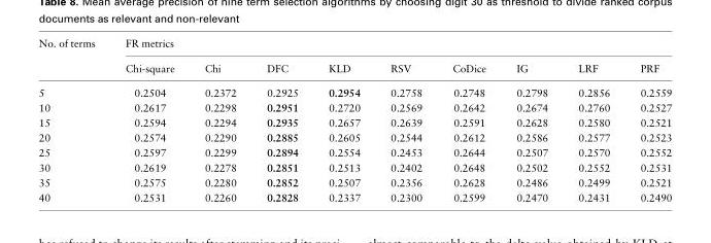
<table><thead><tr><td rowspan="2">No. of terms</td><td colspan="9">FR metrics</td></tr><tr><td>Chi-square</td><td>Chi</td><td>DFC</td><td>KLD</td><td>RSV</td><td>CoDice</td><td>IG</td><td>LRF</td><td>PRF</td></tr></thead><tbody><tr><td>5</td><td>0.2504</td><td>0.2372</td><td>0.2925</td><td>0.2954</td><td>0.2758</td><td>0.2748</td><td>0.2798</td><td>0.2856</td><td>0.2559</td></tr><tr><td>10</td><td>0.2617</td><td>0.2298</td><td>0.2951</td><td>0.2720</td><td>0.2569</td><td>0.2642</td><td>0.2674</td><td>0.2760</td><td>0.2527</td></tr><tr><td>15</td><td>0.2594</td><td>0.2294</td><td>0.2935</td><td>0.2657</td><td>0.2639</td><td>0.2591</td><td>0.2628</td><td>0.2580</td><td>0.2521</td></tr><tr><td>20</td><td>0.2574</td><td>0.2290</td><td>0.2885</td><td>0.2605</td><td>0.2544</td><td>0.2612</td><td>0.2586</td><td>0.2577</td><td>0.2523</td></tr><tr><td>25</td><td>0.2597</td><td>0.2299</td><td>0.2894</td><td>0.2554</td><td>0.2453</td><td>0.2644</td><td>0.2507</td><td>0.2570</td><td>0.2552</td></tr><tr><td>30</td><td>0.2619</td><td>0.2278</td><td>0.2851</td><td>0.2513</td><td>0.2402</td><td>0.2648</td><td>0.2502</td><td>0.2552</td><td>0.2531</td></tr><tr><td>35</td><td>0.2575</td><td>0.2280</td><td>0.2852</td><td>0.2507</td><td>0.2356</td><td>0.2628</td><td>0.2486</td><td>0.2499</td><td>0.2521</td></tr><tr><td>40</td><td>0.2531</td><td>0.2260</td><td>0.2828</td><td>0.2337</td><td>0.2300</td><td>0.2599</td><td>0.2470</td><td>0.2431</td><td>0.2490</td></tr></tbody></table>